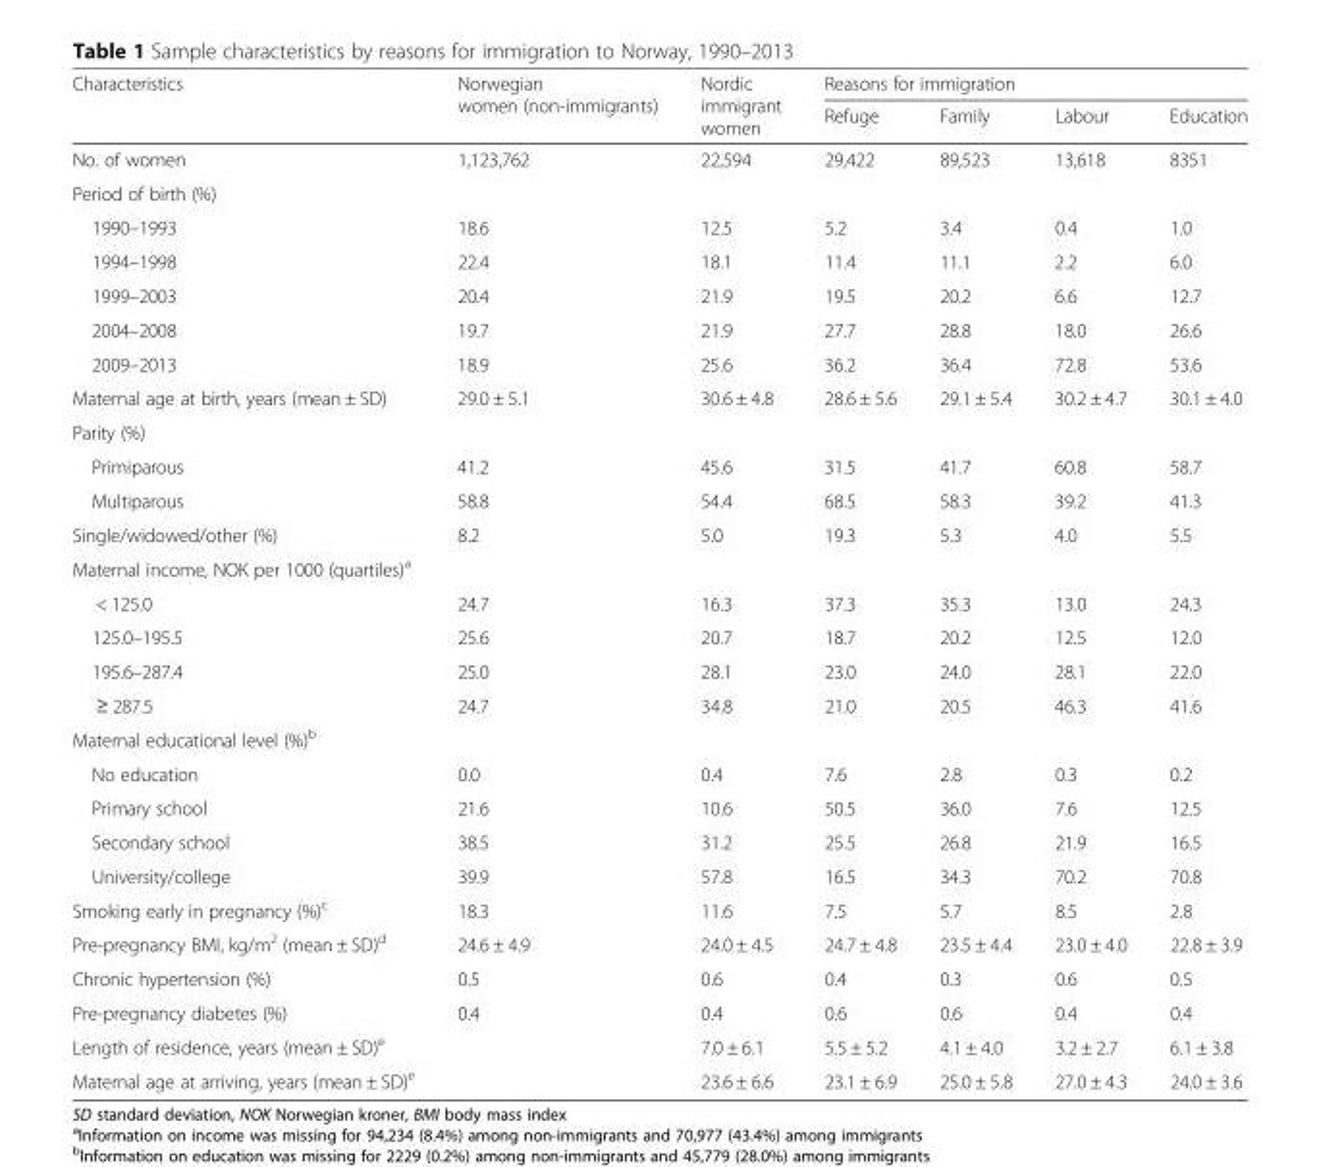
<table><thead><tr><td rowspan="2">Characteristics</td><td rowspan="2">Norwegian women (non-immigrants)</td><td rowspan="2">Nordic immigrant women</td><td colspan="4">Reasons for immigration</td></tr><tr><td>Refuge</td><td>Family</td><td>Labour</td><td>Education</td></tr></thead><tbody><tr><td>No. of women</td><td>1,123,762</td><td>22,594</td><td>29,422</td><td>89,523</td><td>13,618</td><td>8351</td></tr><tr><td colspan="7">Period of birth (%)</td></tr><tr><td>1990–1993</td><td>18.6</td><td>12.5</td><td>5.2</td><td>3.4</td><td>0.4</td><td>1.0</td></tr><tr><td>1994–1998</td><td>22.4</td><td>18.1</td><td>11.4</td><td>11.1</td><td>2.2</td><td>6.0</td></tr><tr><td>1999–2003</td><td>20.4</td><td>21.9</td><td>19.5</td><td>20.2</td><td>6.6</td><td>12.7</td></tr><tr><td>2004–2008</td><td>19.7</td><td>21.9</td><td>27.7</td><td>28.8</td><td>18.0</td><td>26.6</td></tr><tr><td>2009–2013</td><td>18.9</td><td>25.6</td><td>36.2</td><td>36.4</td><td>72.8</td><td>53.6</td></tr><tr><td>Maternal age at birth, years (mean ± SD)</td><td>29.0 ± 5.1</td><td>30.6 ± 4.8</td><td>28.6 ± 5.6</td><td>29.1 ± 5.4</td><td>30.2 ± 4.7</td><td>30.1 ± 4.0</td></tr><tr><td colspan="7">Parity (%)</td></tr><tr><td>Primiparous</td><td>41.2</td><td>45.6</td><td>31.5</td><td>41.7</td><td>60.8</td><td>58.7</td></tr><tr><td>Multiparous</td><td>58.8</td><td>54.4</td><td>68.5</td><td>58.3</td><td>39.2</td><td>41.3</td></tr><tr><td>Single/widowed/other (%)</td><td>8.2</td><td>5.0</td><td>19.3</td><td>5.3</td><td>4.0</td><td>5.5</td></tr><tr><td colspan="7">Maternal income, NOK per 1000 (quartiles)<sup>a</sup></td></tr><tr><td>&lt; 125.0</td><td>24.7</td><td>16.3</td><td>37.3</td><td>35.3</td><td>13.0</td><td>24.3</td></tr><tr><td>125.0–195.5</td><td>25.6</td><td>20.7</td><td>18.7</td><td>20.2</td><td>12.5</td><td>12.0</td></tr><tr><td>195.6–287.4</td><td>25.0</td><td>28.1</td><td>23.0</td><td>24.0</td><td>28.1</td><td>22.0</td></tr><tr><td>≥ 287.5</td><td>24.7</td><td>34.8</td><td>21.0</td><td>20.5</td><td>46.3</td><td>41.6</td></tr><tr><td colspan="7">Maternal educational level (%)<sup>b</sup></td></tr><tr><td>No education</td><td>0.0</td><td>0.4</td><td>7.6</td><td>2.8</td><td>0.3</td><td>0.2</td></tr><tr><td>Primary school</td><td>21.6</td><td>10.6</td><td>50.5</td><td>36.0</td><td>7.6</td><td>12.5</td></tr><tr><td>Secondary school</td><td>38.5</td><td>31.2</td><td>25.5</td><td>26.8</td><td>21.9</td><td>16.5</td></tr><tr><td>University/college</td><td>39.9</td><td>57.8</td><td>16.5</td><td>34.3</td><td>70.2</td><td>70.8</td></tr><tr><td>Smoking early in pregnancy (%)<sup>c</sup></td><td>18.3</td><td>11.6</td><td>7.5</td><td>5.7</td><td>8.5</td><td>2.8</td></tr><tr><td>Pre-pregnancy BMI, kg/m<sup>2</sup> (mean ± SD)<sup>d</sup></td><td>24.6 ± 4.9</td><td>24.0 ± 4.5</td><td>24.7 ± 4.8</td><td>23.5 ± 4.4</td><td>23.0 ± 4.0</td><td>22.8 ± 3.9</td></tr><tr><td>Chronic hypertension (%)</td><td>0.5</td><td>0.6</td><td>0.4</td><td>0.3</td><td>0.6</td><td>0.5</td></tr><tr><td>Pre-pregnancy diabetes (%)</td><td>0.4</td><td>0.4</td><td>0.6</td><td>0.6</td><td>0.4</td><td>0.4</td></tr><tr><td>Length of residence, years (mean ± SD)<sup>e</sup></td><td></td><td>7.0 ± 6.1</td><td>5.5 ± 5.2</td><td>4.1 ± 4.0</td><td>3.2 ± 2.7</td><td>6.1 ± 3.8</td></tr><tr><td>Maternal age at arriving, years (mean ± SD)<sup>e</sup></td><td></td><td>23.6 ± 6.6</td><td>23.1 ± 6.9</td><td>25.0 ± 5.8</td><td>27.0 ± 4.3</td><td>24.0 ± 3.6</td></tr></tbody></table>